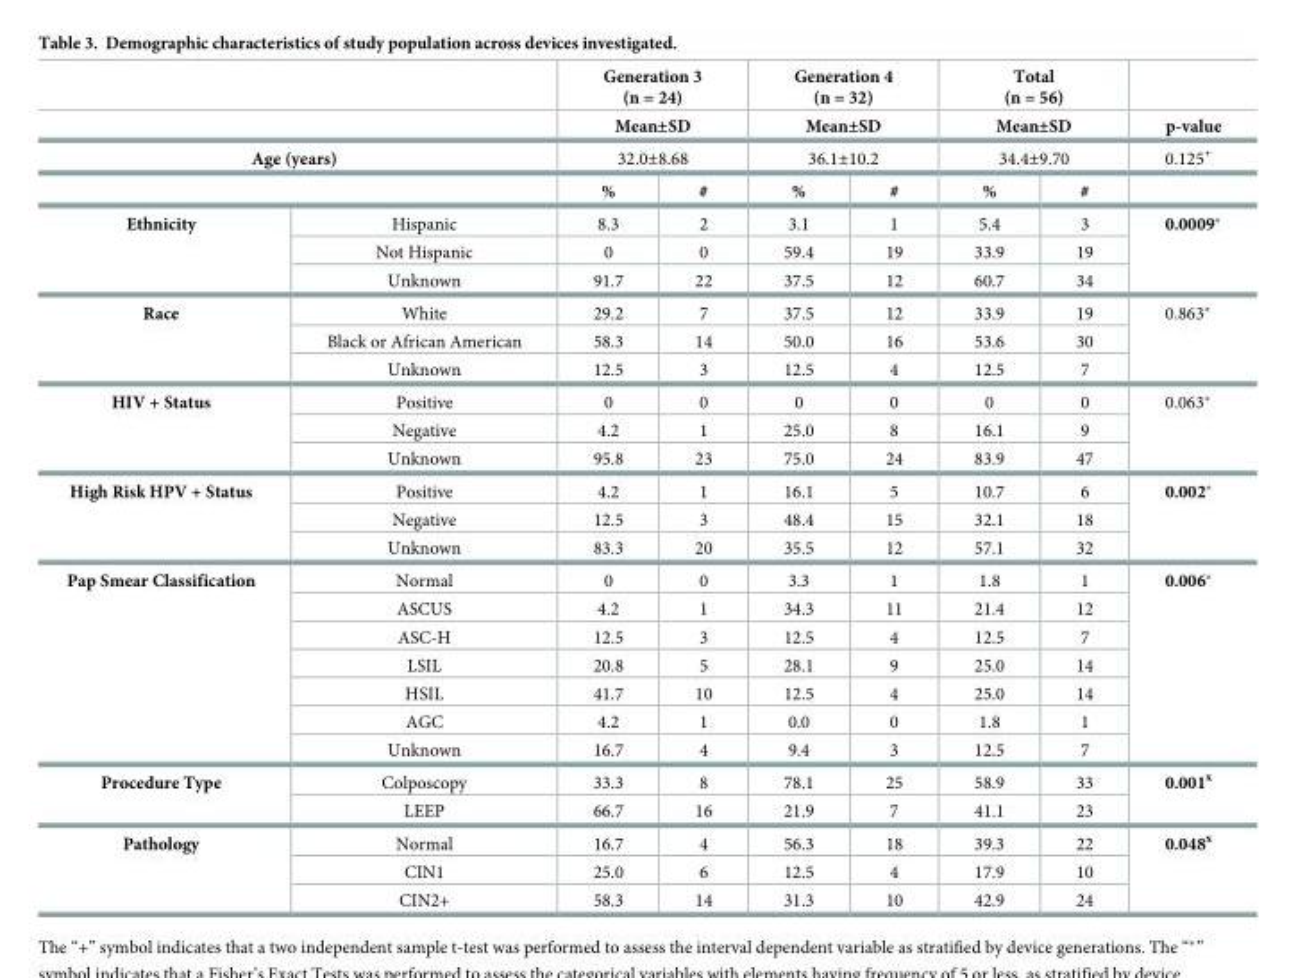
<table><thead><tr><td rowspan="2"></td><td rowspan="2"></td><td rowspan="3" colspan="2">Generation 3 (n = 24) Mean±SD 32.0±8.68</td><td rowspan="3" colspan="2">Generation 4 (n = 32) Mean±SD 36.1±10.2</td><td rowspan="3" colspan="2">Total (n = 56) Mean±SD 34.4±9.70</td><td rowspan="4">p-value 0.125<sup>+</sup></td></tr><tr></tr><tr><td rowspan="2" colspan="2">Age (years)</td></tr><tr><td>%</td><td>#</td><td>%</td><td>#</td><td>%</td><td>#</td></tr></thead><tbody><tr><td rowspan="3">Ethnicity</td><td>Hispanic</td><td>8.3</td><td>2</td><td>3.1</td><td>1</td><td>5.4</td><td>3</td><td rowspan="3">0.0009*</td></tr><tr><td>Not Hispanic</td><td>0</td><td>0</td><td>59.4</td><td>19</td><td>33.9</td><td>19</td></tr><tr><td>Unknown</td><td>91.7</td><td>22</td><td>37.5</td><td>12</td><td>60.7</td><td>34</td></tr><tr><td rowspan="3">Race</td><td>White</td><td>29.2</td><td>7</td><td>37.5</td><td>12</td><td>33.9</td><td>19</td><td rowspan="3">0.863*</td></tr><tr><td>Black or African American</td><td>58.3</td><td>14</td><td>50.0</td><td>16</td><td>53.6</td><td>30</td></tr><tr><td>Unknown</td><td>12.5</td><td>3</td><td>12.5</td><td>4</td><td>12.5</td><td>7</td></tr><tr><td rowspan="3">HIV + Status</td><td>Positive</td><td>0</td><td>0</td><td>0</td><td>0</td><td>0</td><td>0</td><td rowspan="3">0.063*</td></tr><tr><td>Negative</td><td>4.2</td><td>1</td><td>25.0</td><td>8</td><td>16.1</td><td>9</td></tr><tr><td>Unknown</td><td>95.8</td><td>23</td><td>75.0</td><td>24</td><td>83.9</td><td>47</td></tr><tr><td rowspan="3">High Risk HPV + Status</td><td>Positive</td><td>4.2</td><td>1</td><td>16.1</td><td>5</td><td>10.7</td><td>6</td><td rowspan="3">0.002*</td></tr><tr><td>Negative</td><td>12.5</td><td>3</td><td>48.4</td><td>15</td><td>32.1</td><td>18</td></tr><tr><td>Unknown</td><td>83.3</td><td>20</td><td>35.5</td><td>12</td><td>57.1</td><td>32</td></tr><tr><td rowspan="7">Pap Smear Classification</td><td>Normal</td><td>0</td><td>0</td><td>3.3</td><td>1</td><td>1.8</td><td>1</td><td rowspan="7">0.006*</td></tr><tr><td>ASCUS</td><td>4.2</td><td>1</td><td>34.3</td><td>11</td><td>21.4</td><td>12</td></tr><tr><td>ASC-H</td><td>12.5</td><td>3</td><td>12.5</td><td>4</td><td>12.5</td><td>7</td></tr><tr><td>LSIL</td><td>20.8</td><td>5</td><td>28.1</td><td>9</td><td>25.0</td><td>14</td></tr><tr><td>HSIL</td><td>41.7</td><td>10</td><td>12.5</td><td>4</td><td>25.0</td><td>14</td></tr><tr><td>AGC</td><td>4.2</td><td>1</td><td>0.0</td><td>0</td><td>1.8</td><td>1</td></tr><tr><td>Unknown</td><td>16.7</td><td>4</td><td>9.4</td><td>3</td><td>12.5</td><td>7</td></tr><tr><td rowspan="2">Procedure Type</td><td>Colposcopy</td><td>33.3</td><td>8</td><td>78.1</td><td>25</td><td>58.9</td><td>33</td><td rowspan="2">0.001<sup>x</sup></td></tr><tr><td>LEEP</td><td>66.7</td><td>16</td><td>21.9</td><td>7</td><td>41.1</td><td>23</td></tr><tr><td rowspan="3">Pathology</td><td>Normal</td><td>16.7</td><td>4</td><td>56.3</td><td>18</td><td>39.3</td><td>22</td><td rowspan="3">0.048<sup>x</sup></td></tr><tr><td>CIN1</td><td>25.0</td><td>6</td><td>12.5</td><td>4</td><td>17.9</td><td>10</td></tr><tr><td>CIN2+</td><td>58.3</td><td>14</td><td>31.3</td><td>10</td><td>42.9</td><td>24</td></tr></tbody></table>